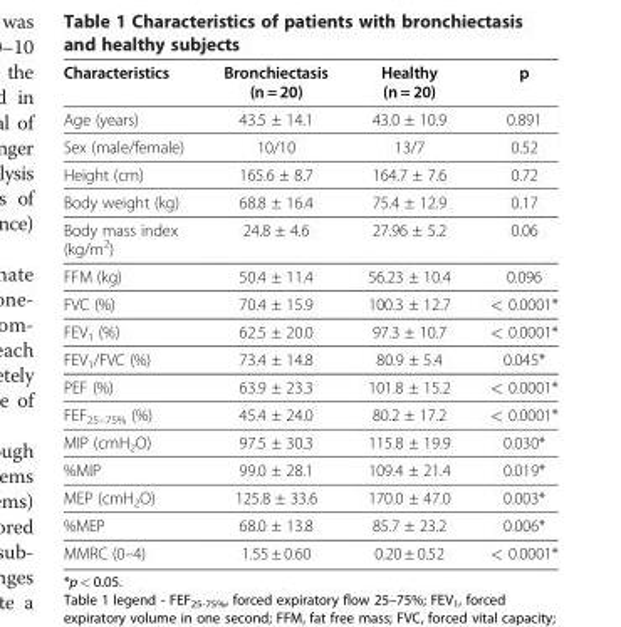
<table><thead><tr><td>Characteristics</td><td>Bronchiectasis (n = 20)</td><td>Healthy (n = 20)</td><td>p</td></tr></thead><tbody><tr><td>Age (years)</td><td>43.5 ± 14.1</td><td>43.0 ± 10.9</td><td>0.891</td></tr><tr><td>Sex (male/female)</td><td>10/10</td><td>13/7</td><td>0.52</td></tr><tr><td>Height (cm)</td><td>165.6 ± 8.7</td><td>164.7 ± 7.6</td><td>0.72</td></tr><tr><td>Body weight (kg)</td><td>68.8 ± 16.4</td><td>75.4 ± 12.9</td><td>0.17</td></tr><tr><td>Body mass index (kg/m<sup>2</sup>)</td><td>24.8 ± 4.6</td><td>27.96 ± 5.2</td><td>0.06</td></tr><tr><td>FFM (kg)</td><td>50.4 ± 11.4</td><td>56.23 ± 10.4</td><td>0.096</td></tr><tr><td>FVC (%)</td><td>70.4 ± 15.9</td><td>100.3 ± 12.7</td><td>&lt; 0.0001*</td></tr><tr><td>FEV<sub>1</sub> (%)</td><td>62.5 ± 20.0</td><td>97.3 ± 10.7</td><td>&lt; 0.0001*</td></tr><tr><td>FEV<sub>1</sub>/FVC (%)</td><td>73.4 ± 14.8</td><td>80.9 ± 5.4</td><td>0.045*</td></tr><tr><td>PEF (%)</td><td>63.9 ± 23.3</td><td>101.8 ± 15.2</td><td>&lt; 0.0001*</td></tr><tr><td>FEF<sub>25–75%</sub> (%)</td><td>45.4 ± 24.0</td><td>80.2 ± 17.2</td><td>&lt; 0.0001*</td></tr><tr><td>MIP (cmH<sub>2</sub>O)</td><td>97.5 ± 30.3</td><td>115.8 ± 19.9</td><td>0.030*</td></tr><tr><td>%MIP</td><td>99.0 ± 28.1</td><td>109.4 ± 21.4</td><td>0.019*</td></tr><tr><td>MEP (cmH<sub>2</sub>O)</td><td>125.8 ± 33.6</td><td>170.0 ± 47.0</td><td>0.003*</td></tr><tr><td>%MEP</td><td>68.0 ± 13.8</td><td>85.7 ± 23.2</td><td>0.006*</td></tr><tr><td>MMRC (0–4)</td><td>1.55 ± 0.60</td><td>0.20 ± 0.52</td><td>&lt; 0.0001*</td></tr></tbody></table>